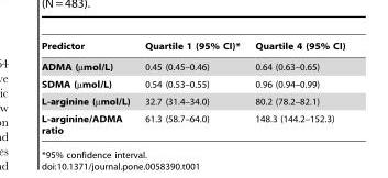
<table><thead><tr><td>Predictor</td><td>Quartile 1 (95% CI)*</td><td>Quartile 4 (95% CI)</td></tr></thead><tbody><tr><td>ADMA (µmol/L)</td><td>0.45 (0.45–0.46)</td><td>0.64 (0.63–0.65)</td></tr><tr><td>SDMA (µmol/L)</td><td>0.54 (0.53–0.55)</td><td>0.96 (0.94–0.99)</td></tr><tr><td>L-arginine (µmol/L)</td><td>32.7 (31.4–34.0)</td><td>80.2 (78.2–82.1)</td></tr><tr><td>L-arginine/ADMA ratio</td><td>61.3 (58.7–64.0)</td><td>148.3 (144.2–152.3)</td></tr></tbody></table>